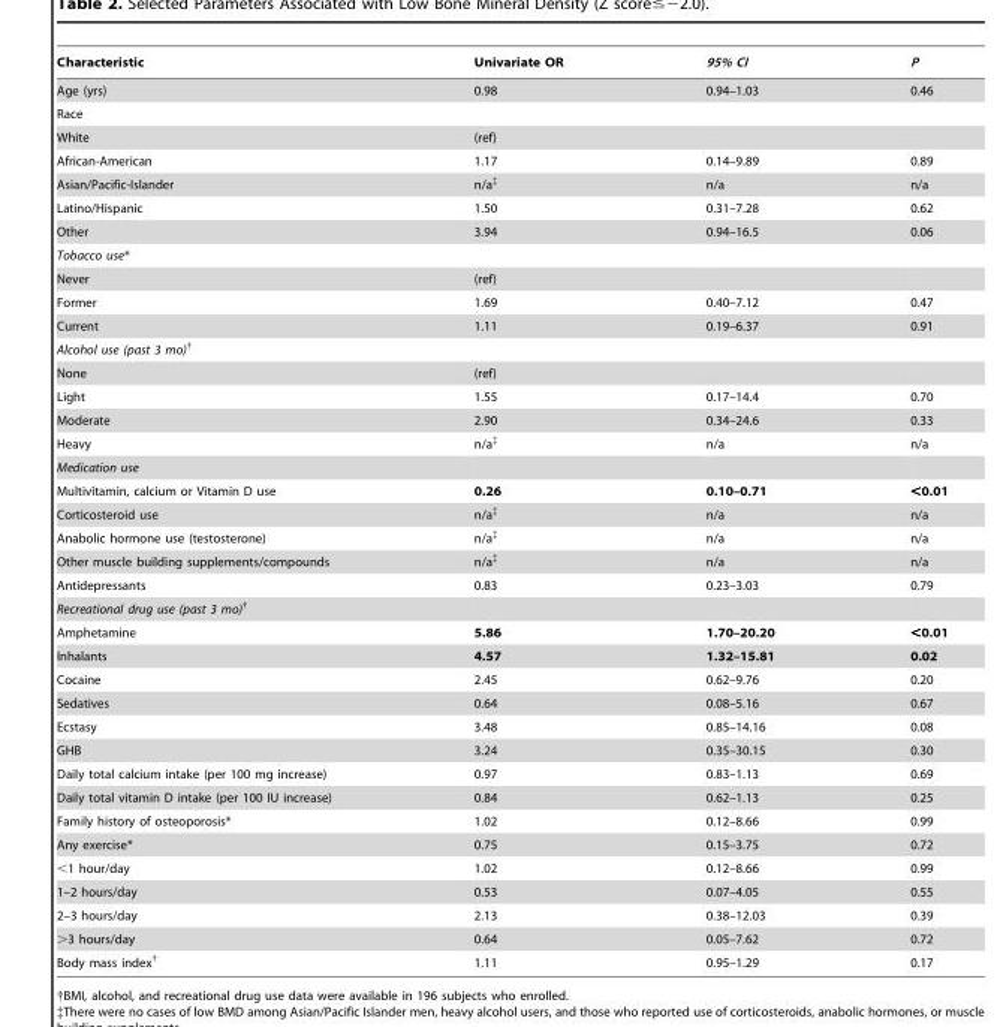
<table><thead><tr><td>Characteristic</td><td>Univariate OR</td><td>95% CI</td><td>P</td></tr></thead><tbody><tr><td>Age (yrs)</td><td>0.98</td><td>0.94–1.03</td><td>0.46</td></tr><tr><td colspan="4">Race</td></tr><tr><td>White</td><td>(ref)</td><td></td><td></td></tr><tr><td>African-American</td><td>1.17</td><td>0.14–9.89</td><td>0.89</td></tr><tr><td>Asian/Pacific-Islander</td><td>n/a‡</td><td>n/a</td><td>n/a</td></tr><tr><td>Latino/Hispanic</td><td>1.50</td><td>0.31–7.28</td><td>0.62</td></tr><tr><td>Other</td><td>3.94</td><td>0.94–16.5</td><td>0.06</td></tr><tr><td colspan="4">Tobacco use*</td></tr><tr><td>Never</td><td>(ref)</td><td></td><td></td></tr><tr><td>Former</td><td>1.69</td><td>0.40–7.12</td><td>0.47</td></tr><tr><td>Current</td><td>1.11</td><td>0.19–6.37</td><td>0.91</td></tr><tr><td colspan="4">Alcohol use (past 3 mo)†</td></tr><tr><td>None</td><td>(ref)</td><td></td><td></td></tr><tr><td>Light</td><td>1.55</td><td>0.17–14.4</td><td>0.70</td></tr><tr><td>Moderate</td><td>2.90</td><td>0.34–24.6</td><td>0.33</td></tr><tr><td>Heavy</td><td>n/a‡</td><td>n/a</td><td>n/a</td></tr><tr><td colspan="4">Medication use</td></tr><tr><td>Multivitamin, calcium or Vitamin D use</td><td>0.26</td><td>0.10–0.71</td><td>&lt;0.01</td></tr><tr><td>Corticosteroid use</td><td>n/a‡</td><td>n/a</td><td>n/a</td></tr><tr><td>Anabolic hormone use (testosterone)</td><td>n/a‡</td><td>n/a</td><td>n/a</td></tr><tr><td>Other muscle building supplements/compounds</td><td>n/a‡</td><td>n/a</td><td>n/a</td></tr><tr><td>Antidepressants</td><td>0.83</td><td>0.23–3.03</td><td>0.79</td></tr><tr><td colspan="4">Recreational drug use (past 3 mo)†</td></tr><tr><td>Amphetamine</td><td>5.86</td><td>1.70–20.20</td><td>&lt;0.01</td></tr><tr><td>Inhalants</td><td>4.57</td><td>1.32–15.81</td><td>0.02</td></tr><tr><td>Cocaine</td><td>2.45</td><td>0.62–9.76</td><td>0.20</td></tr><tr><td>Sedatives</td><td>0.64</td><td>0.08–5.16</td><td>0.67</td></tr><tr><td>Ecstasy</td><td>3.48</td><td>0.85–14.16</td><td>0.08</td></tr><tr><td>GHB</td><td>3.24</td><td>0.35–30.15</td><td>0.30</td></tr><tr><td>Daily total calcium intake (per 100 mg increase)</td><td>0.97</td><td>0.83–1.13</td><td>0.69</td></tr><tr><td>Daily total vitamin D intake (per 100 IU increase)</td><td>0.84</td><td>0.62–1.13</td><td>0.25</td></tr><tr><td>Family history of osteoporosis*</td><td>1.02</td><td>0.12–8.66</td><td>0.99</td></tr><tr><td>Any exercise*</td><td>0.75</td><td>0.15–3.75</td><td>0.72</td></tr><tr><td>&lt;1 hour/day</td><td>1.02</td><td>0.12–8.66</td><td>0.99</td></tr><tr><td>1–2 hours/day</td><td>0.53</td><td>0.07–4.05</td><td>0.55</td></tr><tr><td>2–3 hours/day</td><td>2.13</td><td>0.38–12.03</td><td>0.39</td></tr><tr><td>&gt;3 hours/day</td><td>0.64</td><td>0.05–7.62</td><td>0.72</td></tr><tr><td>Body mass index†</td><td>1.11</td><td>0.95–1.29</td><td>0.17</td></tr></tbody></table>